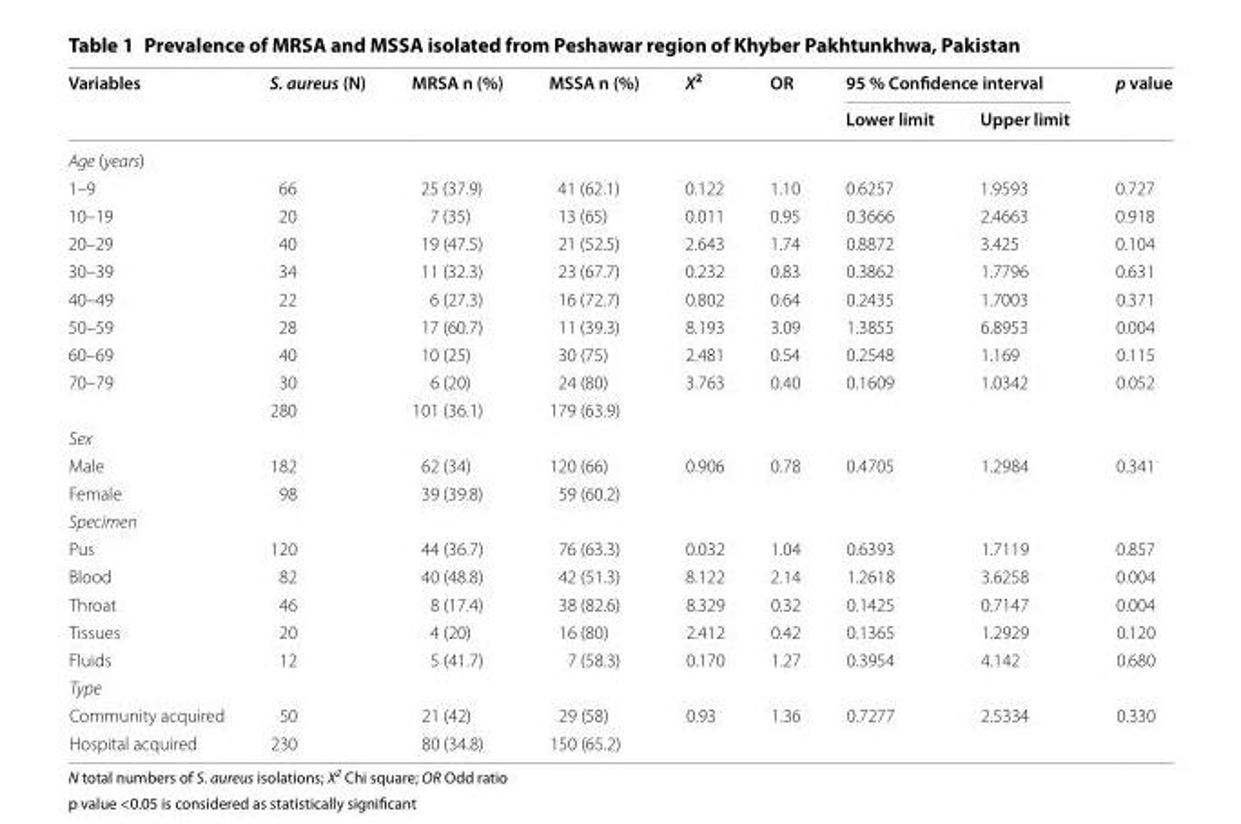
<table><thead><tr><td rowspan="2">Variables</td><td rowspan="2">S. aureus (N)</td><td rowspan="2">MRSA n (%)</td><td rowspan="2">MSSA n (%)</td><td rowspan="2">X<sup>2</sup></td><td rowspan="2">OR</td><td colspan="2">95 % Confidence interval</td><td rowspan="2">p value</td></tr><tr><td>Lower limit</td><td>Upper limit</td></tr></thead><tbody><tr><td colspan="9">Age (years)</td></tr><tr><td>1–9</td><td>66</td><td>25 (37.9)</td><td>41 (62.1)</td><td>0.122</td><td>1.10</td><td>0.6257</td><td>1.9593</td><td>0.727</td></tr><tr><td>10–19</td><td>20</td><td>7 (35)</td><td>13 (65)</td><td>0.011</td><td>0.95</td><td>0.3666</td><td>2.4663</td><td>0.918</td></tr><tr><td>20–29</td><td>40</td><td>19 (47.5)</td><td>21 (52.5)</td><td>2.643</td><td>1.74</td><td>0.8872</td><td>3.425</td><td>0.104</td></tr><tr><td>30–39</td><td>34</td><td>11 (32.3)</td><td>23 (67.7)</td><td>0.232</td><td>0.83</td><td>0.3862</td><td>1.7796</td><td>0.631</td></tr><tr><td>40–49</td><td>22</td><td>6 (27.3)</td><td>16 (72.7)</td><td>0.802</td><td>0.64</td><td>0.2435</td><td>1.7003</td><td>0.371</td></tr><tr><td>50–59</td><td>28</td><td>17 (60.7)</td><td>11 (39.3)</td><td>8.193</td><td>3.09</td><td>1.3855</td><td>6.8953</td><td>0.004</td></tr><tr><td>60–69</td><td>40</td><td>10 (25)</td><td>30 (75)</td><td>2.481</td><td>0.54</td><td>0.2548</td><td>1.169</td><td>0.115</td></tr><tr><td rowspan="2">70–79</td><td>30</td><td>6 (20)</td><td>24 (80)</td><td>3.763</td><td>0.40</td><td>0.1609</td><td>1.0342</td><td>0.052</td></tr><tr><td>280</td><td>101 (36.1)</td><td>179 (63.9)</td><td></td><td></td><td></td><td></td><td></td></tr><tr><td colspan="9">Sex</td></tr><tr><td>Male</td><td>182</td><td>62 (34)</td><td>120 (66)</td><td>0.906</td><td>0.78</td><td>0.4705</td><td>1.2984</td><td>0.341</td></tr><tr><td>Female</td><td>98</td><td>39 (39.8)</td><td>59 (60.2)</td><td></td><td></td><td></td><td></td><td></td></tr><tr><td colspan="9">Specimen</td></tr><tr><td>Pus</td><td>120</td><td>44 (36.7)</td><td>76 (63.3)</td><td>0.032</td><td>1.04</td><td>0.6393</td><td>1.7119</td><td>0.857</td></tr><tr><td>Blood</td><td>82</td><td>40 (48.8)</td><td>42 (51.3)</td><td>8.122</td><td>2.14</td><td>1.2618</td><td>3.6258</td><td>0.004</td></tr><tr><td>Throat</td><td>46</td><td>8 (17.4)</td><td>38 (82.6)</td><td>8.329</td><td>0.32</td><td>0.1425</td><td>0.7147</td><td>0.004</td></tr><tr><td>Tissues</td><td>20</td><td>4 (20)</td><td>16 (80)</td><td>2.412</td><td>0.42</td><td>0.1365</td><td>1.2929</td><td>0.120</td></tr><tr><td>Fluids</td><td>12</td><td>5 (41.7)</td><td>7 (58.3)</td><td>0.170</td><td>1.27</td><td>0.3954</td><td>4.142</td><td>0.680</td></tr><tr><td colspan="9">Type</td></tr><tr><td>Community acquired</td><td>50</td><td>21 (42)</td><td>29 (58)</td><td>0.93</td><td>1.36</td><td>0.7277</td><td>2.5334</td><td>0.330</td></tr><tr><td>Hospital acquired</td><td>230</td><td>80 (34.8)</td><td>150 (65.2)</td><td></td><td></td><td></td><td></td><td></td></tr></tbody></table>